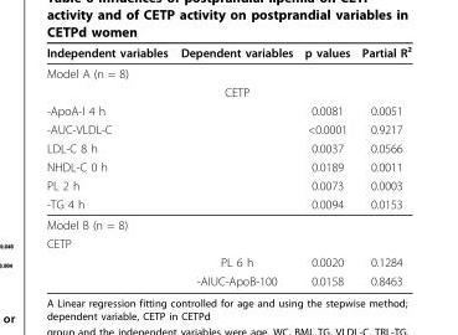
<table><thead><tr><td>Independent variables</td><td>Dependent variables</td><td>p values</td><td>Partial R²</td></tr></thead><tbody><tr><td colspan="4">Model A (n = 8)</td></tr><tr><td></td><td>CETP</td><td></td><td></td></tr><tr><td>-ApoA-I 4 h</td><td></td><td>0.0081</td><td>0.0051</td></tr><tr><td>-AUC-VLDL-C</td><td></td><td>&lt;0.0001</td><td>0.9217</td></tr><tr><td>LDL-C 8 h</td><td></td><td>0.0037</td><td>0.0566</td></tr><tr><td>NHDL-C 0 h</td><td></td><td>0.0189</td><td>0.0011</td></tr><tr><td>PL 2 h</td><td></td><td>0.0073</td><td>0.0003</td></tr><tr><td>-TG 4 h</td><td></td><td>0.0094</td><td>0.0153</td></tr><tr><td colspan="4">Model B (n = 8)</td></tr><tr><td colspan="4">CETP</td></tr><tr><td></td><td>PL 6 h</td><td>0.0020</td><td>0.1284</td></tr><tr><td></td><td>-AIUC-ApoB-100</td><td>0.0158</td><td>0.8463</td></tr></tbody></table>